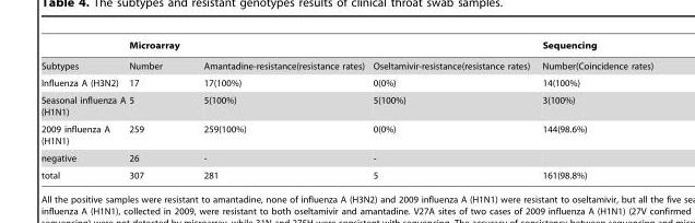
<table><thead><tr><td rowspan="2">Subtypes</td><td colspan="3">Microarray</td><td rowspan="2">Sequencing Number(Coincidence rates)</td></tr><tr><td>Number</td><td>Amantadine-resistance(resistance rates)</td><td>Oseltamivir-resistance(resistance rates)</td></tr></thead><tbody><tr><td>Influenza A (H3N2)</td><td>17</td><td>17(100%)</td><td>0(0%)</td><td>14(100%)</td></tr><tr><td>Seasonal influenza A (H1N1)</td><td>5</td><td>5(100%)</td><td>5(100%)</td><td>3(100%)</td></tr><tr><td>2009 influenza A (H1N1)</td><td>259</td><td>259(100%)</td><td>0(0%)</td><td>144(98.6%)</td></tr><tr><td>negative</td><td>26</td><td>-</td><td>-</td><td></td></tr><tr><td>total</td><td>307</td><td>281</td><td>5</td><td>161(98.8%)</td></tr></tbody></table>